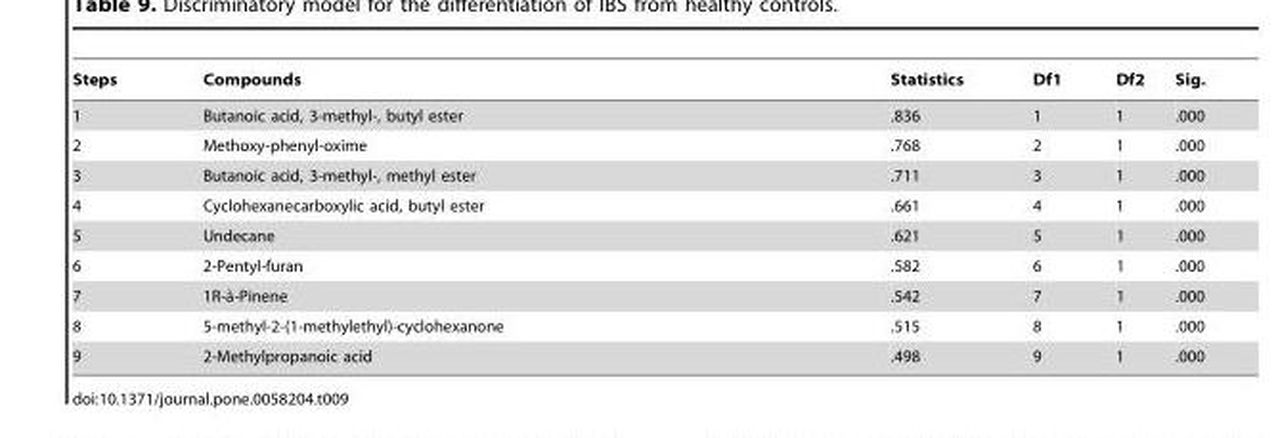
<table><thead><tr><td>Steps</td><td>Compounds</td><td>Statistics</td><td>Df1</td><td>Df2</td><td>Sig.</td></tr></thead><tbody><tr><td>1</td><td>Butanoic acid, 3-methyl-, butyl ester</td><td>.836</td><td>1</td><td>1</td><td>.000</td></tr><tr><td>2</td><td>Methoxy-phenyl-oxime</td><td>.768</td><td>2</td><td>1</td><td>.000</td></tr><tr><td>3</td><td>Butanoic acid, 3-methyl-, methyl ester</td><td>.711</td><td>3</td><td>1</td><td>.000</td></tr><tr><td>4</td><td>Cyclohexanecarboxylic acid, butyl ester</td><td>.661</td><td>4</td><td>1</td><td>.000</td></tr><tr><td>5</td><td>Undecane</td><td>.621</td><td>5</td><td>1</td><td>.000</td></tr><tr><td>6</td><td>2-Pentyl-furan</td><td>.582</td><td>6</td><td>1</td><td>.000</td></tr><tr><td>7</td><td>1R-a`-Pinene</td><td>.542</td><td>7</td><td>1</td><td>.000</td></tr><tr><td>8</td><td>5-methyl-2-(1-methylethyl)-cyclohexanone</td><td>.515</td><td>8</td><td>1</td><td>.000</td></tr><tr><td>9</td><td>2-Methylpropanoic acid</td><td>.498</td><td>9</td><td>1</td><td>.000</td></tr></tbody></table>